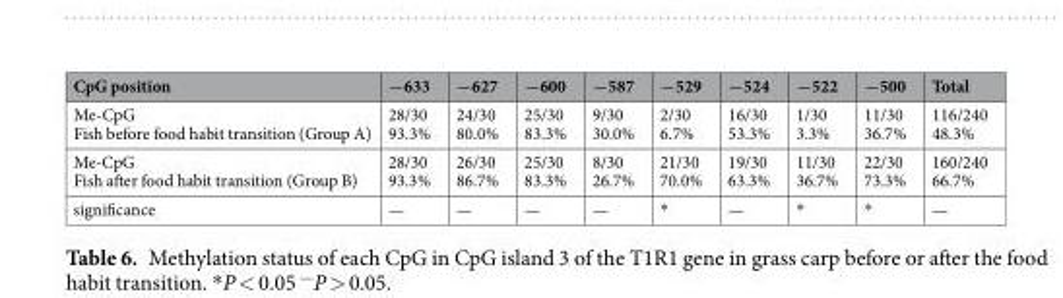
<table><thead><tr><td>CpG position</td><td>−633</td><td>−627</td><td>−600</td><td>−587</td><td>−529</td><td>−524</td><td>−522</td><td>−500</td><td>Total</td></tr></thead><tbody><tr><td>Me-CpG Fish before food habit transition (Group A)</td><td>28/30 93.3%</td><td>24/30 80.0%</td><td>25/30 83.3%</td><td>9/30 30.0%</td><td>2/30 6.7%</td><td>16/30 53.3%</td><td>1/30 3.3%</td><td>11/30 36.7%</td><td>116/240 48.3%</td></tr><tr><td>Me-CpG Fish after food habit transition (Group B)</td><td>28/30 93.3%</td><td>26/30 86.7%</td><td>25/30 83.3%</td><td>8/30 26.7%</td><td>21/30 70.0%</td><td>19/30 63.3%</td><td>11/30 36.7%</td><td>22/30 73.3%</td><td>160/240 66.7%</td></tr><tr><td>significance</td><td>—</td><td>—</td><td>—</td><td>—</td><td>*</td><td>—</td><td>*</td><td>*</td><td>—</td></tr></tbody></table>